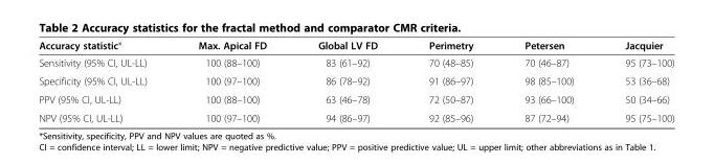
<table><thead><tr><td>Accuracy statistic*</td><td>Max. Apical FD</td><td>Global LV FD</td><td>Perimetry</td><td>Petersen</td><td>Jacquier</td></tr></thead><tbody><tr><td>Sensitivity (95% CI, UL-LL)</td><td>100 (88–100)</td><td>83 (61–92)</td><td>70 (48–85)</td><td>70 (46–87)</td><td>95 (73–100)</td></tr><tr><td>Specificity (95% CI, UL-LL)</td><td>100 (97–100)</td><td>86 (78–92)</td><td>91 (86–97)</td><td>98 (85–100)</td><td>53 (36–68)</td></tr><tr><td>PPV (95% CI, UL-LL)</td><td>100 (88–100)</td><td>63 (46–78)</td><td>72 (50–87)</td><td>93 (66–100)</td><td>50 (34–66)</td></tr><tr><td>NPV (95% CI, UL-LL)</td><td>100 (97–100)</td><td>94 (86–97)</td><td>92 (85–96)</td><td>87 (72–94)</td><td>95 (75–100)</td></tr></tbody></table>